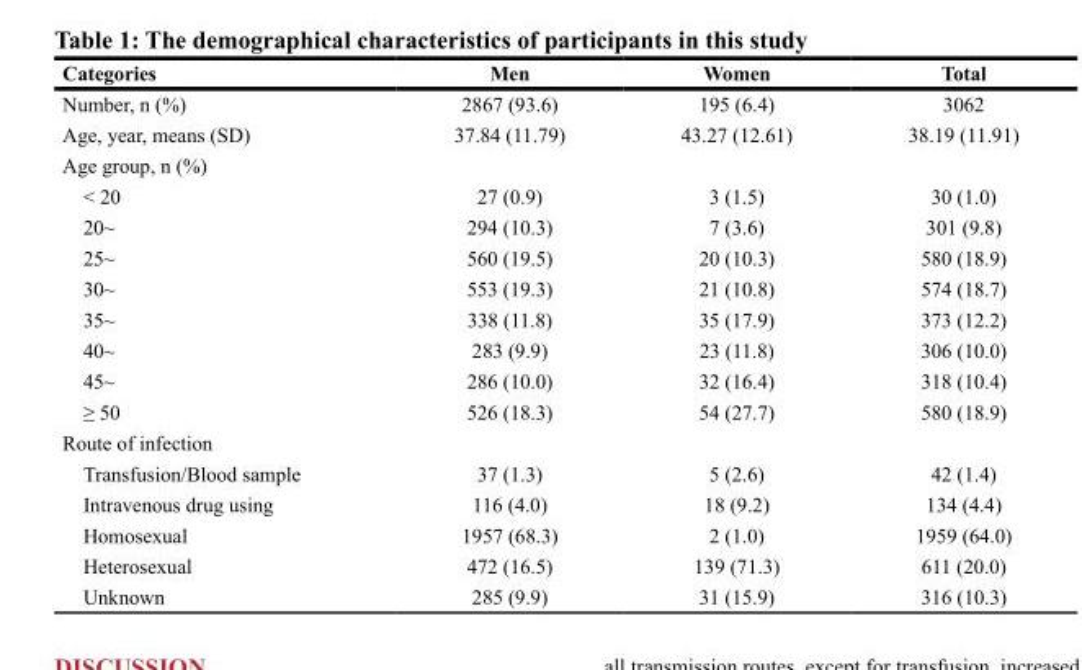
<table><thead><tr><td>Categories</td><td>Men</td><td>Women</td><td>Total</td></tr></thead><tbody><tr><td>Number, n (%)</td><td>2867 (93.6)</td><td>195 (6.4)</td><td>3062</td></tr><tr><td>Age, year, means (SD)</td><td>37.84 (11.79)</td><td>43.27 (12.61)</td><td>38.19 (11.91)</td></tr><tr><td colspan="4">Age group, n (%)</td></tr><tr><td>&lt; 20</td><td>27 (0.9)</td><td>3 (1.5)</td><td>30 (1.0)</td></tr><tr><td>20~</td><td>294 (10.3)</td><td>7 (3.6)</td><td>301 (9.8)</td></tr><tr><td>25~</td><td>560 (19.5)</td><td>20 (10.3)</td><td>580 (18.9)</td></tr><tr><td>30~</td><td>553 (19.3)</td><td>21 (10.8)</td><td>574 (18.7)</td></tr><tr><td>35~</td><td>338 (11.8)</td><td>35 (17.9)</td><td>373 (12.2)</td></tr><tr><td>40~</td><td>283 (9.9)</td><td>23 (11.8)</td><td>306 (10.0)</td></tr><tr><td>45~</td><td>286 (10.0)</td><td>32 (16.4)</td><td>318 (10.4)</td></tr><tr><td>≥ 50</td><td>526 (18.3)</td><td>54 (27.7)</td><td>580 (18.9)</td></tr><tr><td colspan="4">Route of infection</td></tr><tr><td>Transfusion/Blood sample</td><td>37 (1.3)</td><td>5 (2.6)</td><td>42 (1.4)</td></tr><tr><td>Intravenous drug using</td><td>116 (4.0)</td><td>18 (9.2)</td><td>134 (4.4)</td></tr><tr><td>Homosexual</td><td>1957 (68.3)</td><td>2 (1.0)</td><td>1959 (64.0)</td></tr><tr><td>Heterosexual</td><td>472 (16.5)</td><td>139 (71.3)</td><td>611 (20.0)</td></tr><tr><td>Unknown</td><td>285 (9.9)</td><td>31 (15.9)</td><td>316 (10.3)</td></tr></tbody></table>